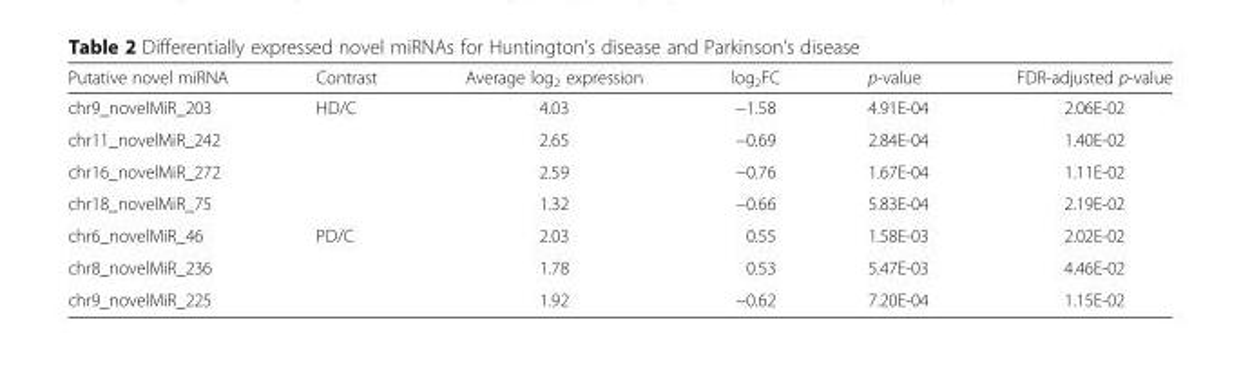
<table><thead><tr><td>Putative novel miRNA</td><td>Contrast</td><td>Average log<sub>2</sub> expression</td><td>log<sub>2</sub>FC</td><td>p-value</td><td>FDR-adjusted p-value</td></tr></thead><tbody><tr><td>chr9_novelMiR_203</td><td rowspan="4">HD/C</td><td>4.03</td><td>−1.58</td><td>4.91E-04</td><td>2.06E-02</td></tr><tr><td>chr11_novelMiR_242</td><td>2.65</td><td>−0.69</td><td>2.84E-04</td><td>1.40E-02</td></tr><tr><td>chr16_novelMiR_272</td><td>2.59</td><td>−0.76</td><td>1.67E-04</td><td>1.11E-02</td></tr><tr><td>chr18_novelMiR_75</td><td>1.32</td><td>−0.66</td><td>5.83E-04</td><td>2.19E-02</td></tr><tr><td>chr6_novelMiR_46</td><td rowspan="3">PD/C</td><td>2.03</td><td>0.55</td><td>1.58E-03</td><td>2.02E-02</td></tr><tr><td>chr8_novelMiR_236</td><td>1.78</td><td>0.53</td><td>5.47E-03</td><td>4.46E-02</td></tr><tr><td>chr9_novelMiR_225</td><td>1.92</td><td>−0.62</td><td>7.20E-04</td><td>1.15E-02</td></tr></tbody></table>